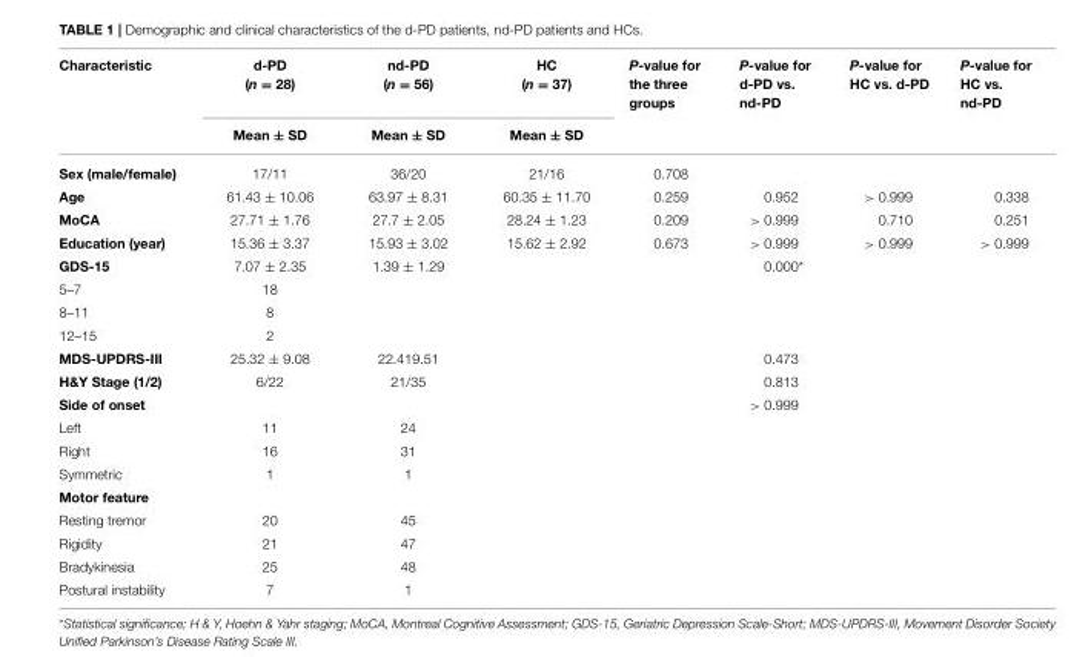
<table><thead><tr><td rowspan="2">Characteristic</td><td rowspan="2">d-PD (n = 28) Mean ± SD</td><td rowspan="2">nd-PD (n = 56) Mean ± SD</td><td rowspan="2">HC (n = 37) Mean ± SD</td><td rowspan="2">P-value for the three groups</td><td rowspan="2">P-value for d-PD vs. nd-PD</td><td rowspan="2">P-value for HC vs. d-PD</td><td rowspan="2">P-value for HC vs. nd-PD</td></tr><tr></tr></thead><tbody><tr><td>Sex (male/female)</td><td>17/11</td><td>36/20</td><td>21/16</td><td>0.708</td><td></td><td></td><td></td></tr><tr><td>Age</td><td>61.43 ± 10.06</td><td>63.97 ± 8.31</td><td>60.35 ± 11.70</td><td>0.259</td><td>0.952</td><td>&gt; 0.999</td><td>0.338</td></tr><tr><td>MoCA</td><td>27.71 ± 1.76</td><td>27.7 ± 2.05</td><td>28.24 ± 1.23</td><td>0.209</td><td>&gt; 0.999</td><td>0.710</td><td>0.251</td></tr><tr><td>Education (year)</td><td>15.36 ± 3.37</td><td>15.93 ± 3.02</td><td>15.62 ± 2.92</td><td>0.673</td><td>&gt; 0.999</td><td>&gt; 0.999</td><td>&gt; 0.999</td></tr><tr><td>GDS-15</td><td>7.07 ± 2.35</td><td>1.39 ± 1.29</td><td></td><td></td><td>0.000*</td><td></td><td></td></tr><tr><td>5–7</td><td>18</td><td></td><td></td><td></td><td></td><td></td><td></td></tr><tr><td>8–11</td><td>8</td><td></td><td></td><td></td><td></td><td></td><td></td></tr><tr><td>12–15</td><td>2</td><td></td><td></td><td></td><td></td><td></td><td></td></tr><tr><td>MDS-UPDRS-III</td><td>25.32 ± 9.08</td><td>22.419.51</td><td></td><td></td><td>0.473</td><td></td><td></td></tr><tr><td>H&amp;Y Stage (1/2)</td><td>6/22</td><td>21/35</td><td></td><td></td><td>0.813</td><td></td><td></td></tr><tr><td>Side of onset</td><td></td><td></td><td></td><td></td><td>&gt; 0.999</td><td></td><td></td></tr><tr><td>Left</td><td>11</td><td>24</td><td></td><td></td><td></td><td></td><td></td></tr><tr><td>Right</td><td>16</td><td>31</td><td></td><td></td><td></td><td></td><td></td></tr><tr><td>Symmetric</td><td>1</td><td>1</td><td></td><td></td><td></td><td></td><td></td></tr><tr><td colspan="8">Motor feature</td></tr><tr><td>Resting tremor</td><td>20</td><td>45</td><td></td><td></td><td></td><td></td><td></td></tr><tr><td>Rigidity</td><td>21</td><td>47</td><td></td><td></td><td></td><td></td><td></td></tr><tr><td>Bradykinesia</td><td>25</td><td>48</td><td></td><td></td><td></td><td></td><td></td></tr><tr><td>Postural instability</td><td>7</td><td>1</td><td></td><td></td><td></td><td></td><td></td></tr></tbody></table>